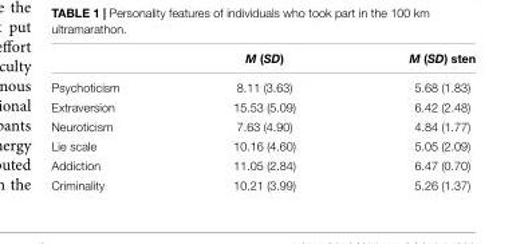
<table><thead><tr><td></td><td>M (SD)</td><td>M (SD) sten</td></tr></thead><tbody><tr><td>Psychoticism</td><td>8.11 (3.63)</td><td>5.68 (1.83)</td></tr><tr><td>Extraversion</td><td>15.53 (5.09)</td><td>6.42 (2.48)</td></tr><tr><td>Neuroticism</td><td>7.63 (4.90)</td><td>4.84 (1.77)</td></tr><tr><td>Lie scale</td><td>10.16 (4.60)</td><td>5.05 (2.09)</td></tr><tr><td>Addiction</td><td>11.05 (2.84)</td><td>6.47 (0.70)</td></tr><tr><td>Criminality</td><td>10.21 (3.99)</td><td>5.26 (1.37)</td></tr></tbody></table>